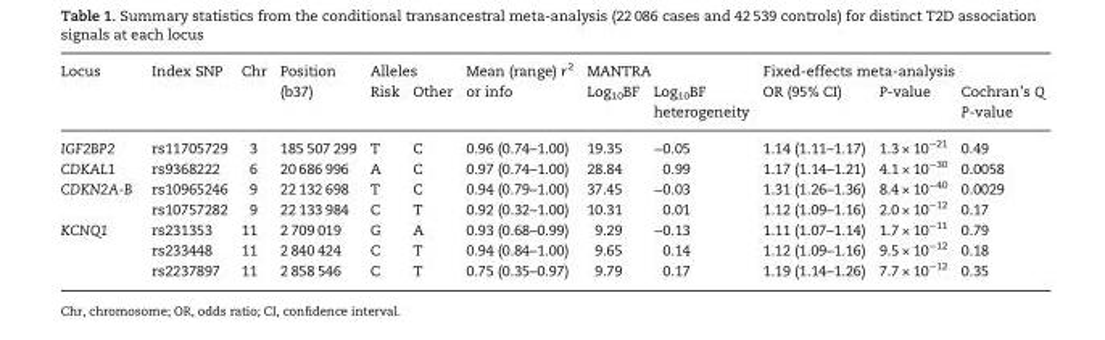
<table><thead><tr><td rowspan="2">Locus</td><td rowspan="2">Index SNP</td><td rowspan="2">Chr</td><td rowspan="2">Position (b37)</td><td colspan="2">Alleles</td><td rowspan="2">Mean (range) r<sup>2</sup> or info</td><td colspan="2">MANTRA</td><td colspan="3">Fixed-effects meta-analysis</td></tr><tr><td>Risk</td><td>Other</td><td>Log<sub>10</sub>BF</td><td>Log<sub>10</sub>BF heterogeneity</td><td>OR (95% CI)</td><td>P-value</td><td>Cochran’s Q P-value</td></tr></thead><tbody><tr><td>IGF2BP2</td><td>rs11705729</td><td>3</td><td>185 507 299</td><td>T</td><td>C</td><td>0.96 (0.74–1.00)</td><td>19.35</td><td>−0.05</td><td>1.14 (1.11–1.17)</td><td>1.3 × 10<sup>−21</sup></td><td>0.49</td></tr><tr><td>CDKAL1</td><td>rs9368222</td><td>6</td><td>20 686 996</td><td>A</td><td>C</td><td>0.97 (0.74–1.00)</td><td>28.84</td><td>0.99</td><td>1.17 (1.14–1.21)</td><td>4.1 × 10<sup>−30</sup></td><td>0.0058</td></tr><tr><td rowspan="2">CDKN2A-B</td><td>rs10965246</td><td>9</td><td>22 132 698</td><td>T</td><td>C</td><td>0.94 (0.79–1.00)</td><td>37.45</td><td>−0.03</td><td>1.31 (1.26–1.36)</td><td>8.4 × 10<sup>−40</sup></td><td>0.0029</td></tr><tr><td>rs10757282</td><td>9</td><td>22 133 984</td><td>C</td><td>T</td><td>0.92 (0.32–1.00)</td><td>10.31</td><td>0.01</td><td>1.12 (1.09–1.16)</td><td>2.0 × 10<sup>−12</sup></td><td>0.17</td></tr><tr><td rowspan="3">KCNQ1</td><td>rs231353</td><td>11</td><td>2 709 019</td><td>G</td><td>A</td><td>0.93 (0.68–0.99)</td><td>9.29</td><td>−0.13</td><td>1.11 (1.07–1.14)</td><td>1.7 × 10<sup>−11</sup></td><td>0.79</td></tr><tr><td>rs233448</td><td>11</td><td>2 840 424</td><td>C</td><td>T</td><td>0.94 (0.84–1.00)</td><td>9.65</td><td>0.14</td><td>1.12 (1.09–1.16)</td><td>9.5 × 10<sup>−12</sup></td><td>0.18</td></tr><tr><td>rs2237897</td><td>11</td><td>2 858 546</td><td>C</td><td>T</td><td>0.75 (0.35–0.97)</td><td>9.79</td><td>0.17</td><td>1.19 (1.14–1.26)</td><td>7.7 × 10<sup>−12</sup></td><td>0.35</td></tr></tbody></table>